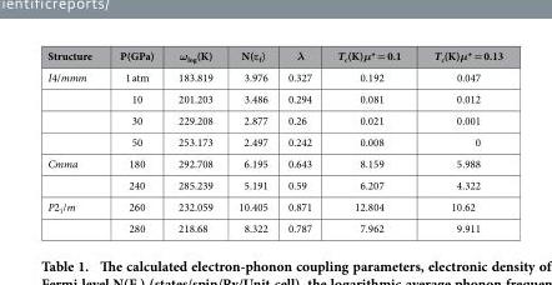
<table><thead><tr><td>Structure</td><td>P(GPa)</td><td>ω<sub>log</sub>(K)</td><td>N(ε<sub>f</sub>)</td><td>λ</td><td>T<sub>c</sub>(K)μ* = 0.1</td><td>T<sub>c</sub>(K)μ* = 0.13</td></tr></thead><tbody><tr><td rowspan="4">I4/mmm</td><td>1 atm</td><td>183.819</td><td>3.976</td><td>0.327</td><td>0.192</td><td>0.047</td></tr><tr><td>10</td><td>201.203</td><td>3.486</td><td>0.294</td><td>0.081</td><td>0.012</td></tr><tr><td>30</td><td>229.208</td><td>2.877</td><td>0.26</td><td>0.021</td><td>0.001</td></tr><tr><td>50</td><td>253.173</td><td>2.497</td><td>0.242</td><td>0.008</td><td>0</td></tr><tr><td rowspan="2">Cmma</td><td>180</td><td>292.708</td><td>6.195</td><td>0.643</td><td>8.159</td><td>5.988</td></tr><tr><td>240</td><td>285.239</td><td>5.191</td><td>0.59</td><td>6.207</td><td>4.322</td></tr><tr><td rowspan="2">P2<sub>1</sub>/m</td><td>260</td><td>232.059</td><td>10.405</td><td>0.871</td><td>12.804</td><td>10.62</td></tr><tr><td>280</td><td>218.68</td><td>8.322</td><td>0.787</td><td>7.962</td><td>9.911</td></tr></tbody></table>